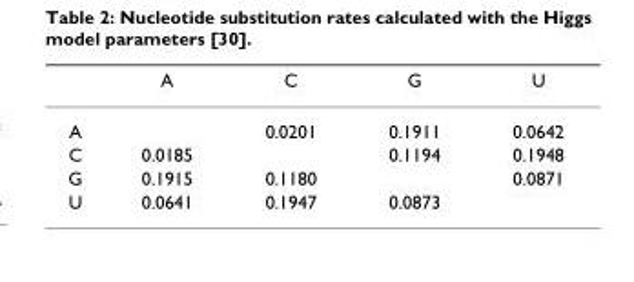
<table><thead><tr><td></td><td>A</td><td>C</td><td>G</td><td>U</td></tr></thead><tbody><tr><td>A</td><td></td><td>0.0201</td><td>0.1911</td><td>0.0642</td></tr><tr><td>C</td><td>0.0185</td><td></td><td>0.1194</td><td>0.1948</td></tr><tr><td>G</td><td>0.1915</td><td>0.1180</td><td></td><td>0.0871</td></tr><tr><td>U</td><td>0.0641</td><td>0.1947</td><td>0.0873</td><td></td></tr></tbody></table>